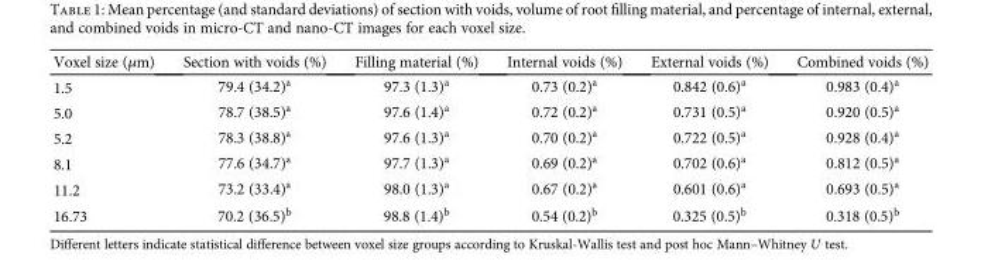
<table><thead><tr><td>Voxel size (μm)</td><td>Section with voids (%)</td><td>Filling material (%)</td><td>Internal voids (%)</td><td>External voids (%)</td><td>Combined voids (%)</td></tr></thead><tbody><tr><td>1.5</td><td>79.4 (34.2)<sup>a</sup></td><td>97.3 (1.3)<sup>a</sup></td><td>0.73 (0.2)<sup>a</sup></td><td>0.842 (0.6)<sup>a</sup></td><td>0.983 (0.4)<sup>a</sup></td></tr><tr><td>5.0</td><td>78.7 (38.5)<sup>a</sup></td><td>97.6 (1.4)<sup>a</sup></td><td>0.72 (0.2)<sup>a</sup></td><td>0.731 (0.5)<sup>a</sup></td><td>0.920 (0.5)<sup>a</sup></td></tr><tr><td>5.2</td><td>78.3 (38.8)<sup>a</sup></td><td>97.6 (1.3)<sup>a</sup></td><td>0.70 (0.2)<sup>a</sup></td><td>0.722 (0.5)<sup>a</sup></td><td>0.928 (0.4)<sup>a</sup></td></tr><tr><td>8.1</td><td>77.6 (34.7)<sup>a</sup></td><td>97.7 (1.3)<sup>a</sup></td><td>0.69 (0.2)<sup>a</sup></td><td>0.702 (0.6)<sup>a</sup></td><td>0.812 (0.5)<sup>a</sup></td></tr><tr><td>11.2</td><td>73.2 (33.4)<sup>a</sup></td><td>98.0 (1.3)<sup>a</sup></td><td>0.67 (0.2)<sup>a</sup></td><td>0.601 (0.6)<sup>a</sup></td><td>0.693 (0.5)<sup>a</sup></td></tr><tr><td>16.73</td><td>70.2 (36.5)<sup>b</sup></td><td>98.8 (1.4)<sup>b</sup></td><td>0.54 (0.2)<sup>b</sup></td><td>0.325 (0.5)<sup>b</sup></td><td>0.318 (0.5)<sup>b</sup></td></tr></tbody></table>